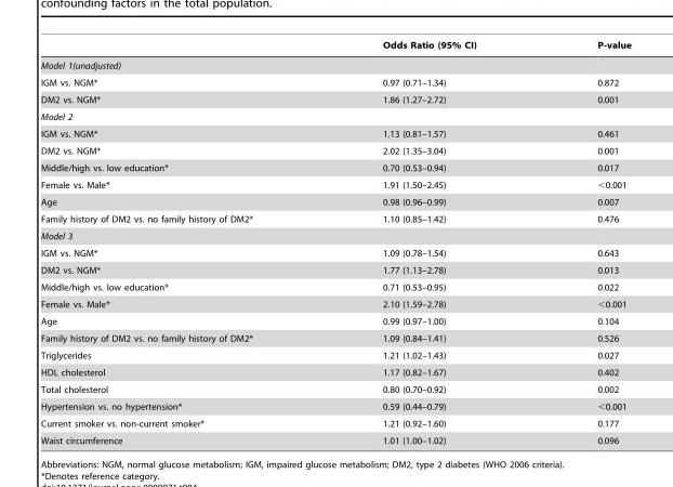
<table><thead><tr><td></td><td>Odds Ratio (95% CI)</td><td>P-value</td></tr></thead><tbody><tr><td colspan="3">Model 1(unadjusted)</td></tr><tr><td>IGM vs. NGM*</td><td>0.97 (0.71–1.34)</td><td>0.872</td></tr><tr><td>DM2 vs. NGM*</td><td>1.86 (1.27–2.72)</td><td>0.001</td></tr><tr><td colspan="3">Model 2</td></tr><tr><td>IGM vs. NGM*</td><td>1.13 (0.81–1.57)</td><td>0.461</td></tr><tr><td>DM2 vs. NGM*</td><td>2.02 (1.35–3.04)</td><td>0.001</td></tr><tr><td>Middle/high vs. low education*</td><td>0.70 (0.53–0.94)</td><td>0.017</td></tr><tr><td>Female vs. Male*</td><td>1.91 (1.50–2.45)</td><td>&lt;0.001</td></tr><tr><td>Age</td><td>0.98 (0.96–0.99)</td><td>0.007</td></tr><tr><td>Family history of DM2 vs. no family history of DM2*</td><td>1.10 (0.85–1.42)</td><td>0.476</td></tr><tr><td colspan="3">Model 3</td></tr><tr><td>IGM vs. NGM*</td><td>1.09 (0.78–1.54)</td><td>0.643</td></tr><tr><td>DM2 vs. NGM*</td><td>1.77 (1.13–2.78)</td><td>0.013</td></tr><tr><td>Middle/high vs. low education*</td><td>0.71 (0.53–0.95)</td><td>0.022</td></tr><tr><td>Female vs. Male*</td><td>2.10 (1.59–2.78)</td><td>&lt;0.001</td></tr><tr><td>Age</td><td>0.99 (0.97–1.00)</td><td>0.104</td></tr><tr><td>Family history of DM2 vs. no family history of DM2*</td><td>1.09 (0.84–1.41)</td><td>0.526</td></tr><tr><td>Triglycerides</td><td>1.21 (1.02–1.43)</td><td>0.027</td></tr><tr><td>HDL cholesterol</td><td>1.17 (0.82–1.67)</td><td>0.402</td></tr><tr><td>Total cholesterol</td><td>0.80 (0.70–0.92)</td><td>0.002</td></tr><tr><td>Hypertension vs. no hypertension*</td><td>0.59 (0.44–0.79)</td><td>&lt;0.001</td></tr><tr><td>Current smoker vs. non-current smoker*</td><td>1.21 (0.92–1.60)</td><td>0.177</td></tr><tr><td>Waist circumference</td><td>1.01 (1.00–1.02)</td><td>0.096</td></tr></tbody></table>